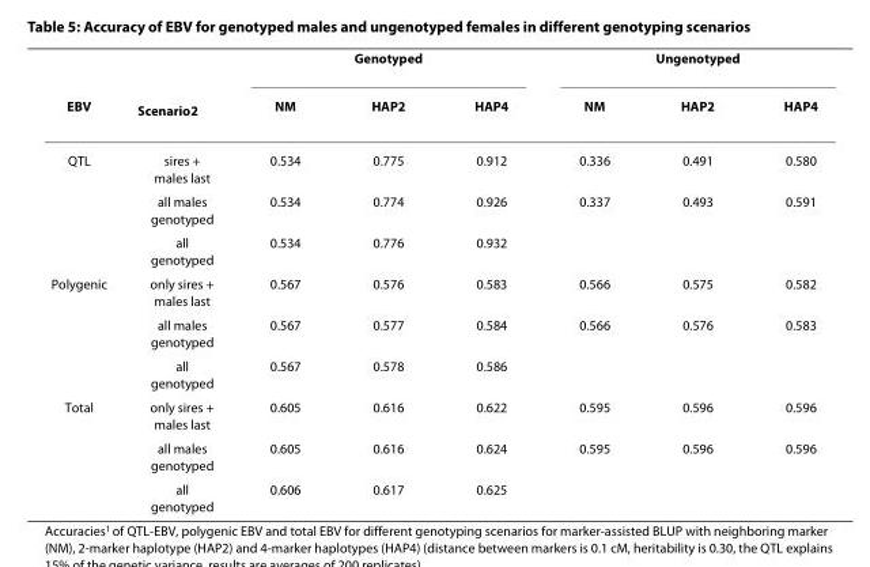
<table><thead><tr><td rowspan="2">EBV</td><td rowspan="2">Scenario<sup>2</sup></td><td colspan="3">Genotyped</td><td colspan="3">Ungenotyped</td></tr><tr><td>NM</td><td>HAP2</td><td>HAP4</td><td>NM</td><td>HAP2</td><td>HAP4</td></tr></thead><tbody><tr><td rowspan="3">QTL</td><td>sires + males last</td><td>0.534</td><td>0.775</td><td>0.912</td><td>0.336</td><td>0.491</td><td>0.580</td></tr><tr><td>all males genotyped</td><td>0.534</td><td>0.774</td><td>0.926</td><td>0.337</td><td>0.493</td><td>0.591</td></tr><tr><td>all genotyped</td><td>0.534</td><td>0.776</td><td>0.932</td><td></td><td></td><td></td></tr><tr><td rowspan="3">Polygenic</td><td>only sires + males last</td><td>0.567</td><td>0.576</td><td>0.583</td><td>0.566</td><td>0.575</td><td>0.582</td></tr><tr><td>all males genotyped</td><td>0.567</td><td>0.577</td><td>0.584</td><td>0.566</td><td>0.576</td><td>0.583</td></tr><tr><td>all genotyped</td><td>0.567</td><td>0.578</td><td>0.586</td><td></td><td></td><td></td></tr><tr><td rowspan="3">Total</td><td>only sires + males last</td><td>0.605</td><td>0.616</td><td>0.622</td><td>0.595</td><td>0.596</td><td>0.596</td></tr><tr><td>all males genotyped</td><td>0.605</td><td>0.616</td><td>0.624</td><td>0.595</td><td>0.596</td><td>0.596</td></tr><tr><td>all genotyped</td><td>0.606</td><td>0.617</td><td>0.625</td><td></td><td></td><td></td></tr></tbody></table>